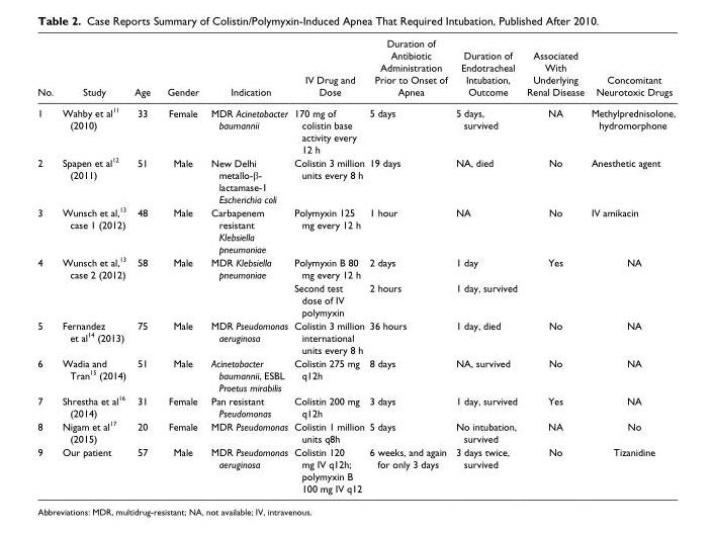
<table><thead><tr><td>No.</td><td>Study</td><td>Age</td><td>Gender</td><td>Indication</td><td>IV Drug and Dose</td><td>Duration of Antibiotic Administration Prior to Onset of Apnea</td><td>Duration of Endotracheal Intubation, Outcome</td><td>Associated With Underlying Renal Disease</td><td>Concomitant Neurotoxic Drugs</td></tr></thead><tbody><tr><td>1</td><td>Wahby et al<sup>11</sup> (2010)</td><td>33</td><td>Female</td><td>MDR Acinetobacter baumannii</td><td>170 mg of colistin base activity every 12 h</td><td>5 days</td><td>5 days, survived</td><td>NA</td><td>Methylprednisolone, hydromorphone</td></tr><tr><td>2</td><td>Spapen et al<sup>12</sup> (2011)</td><td>51</td><td>Male</td><td>New Delhi metallo-β- lactamase-1 Escherichia coli</td><td>Colistin 3 million units every 8 h</td><td>19 days</td><td>NA, died</td><td>No</td><td>Anesthetic agent</td></tr><tr><td>3</td><td>Wunsch et al,<sup>13</sup> case 1 (2012)</td><td>48</td><td>Male</td><td>Carbapenem resistant Klebsiella pneumoniae</td><td>Polymyxin 125 mg every 12 h</td><td>1 hour</td><td>NA</td><td>No</td><td>IV amikacin</td></tr><tr><td rowspan="2">4</td><td>Wunsch et al,<sup>13</sup> case 2 (2012)</td><td>58</td><td>Male</td><td>MDR Klebsiella pneumoniae</td><td>Polymyxin B 80 mg every 12 h</td><td>2 days</td><td>1 day</td><td>Yes</td><td>NA</td></tr><tr><td></td><td></td><td></td><td></td><td>Second test dose of IV polymyxin</td><td>2 hours</td><td>1 day, survived</td><td></td><td></td></tr><tr><td>5</td><td>Fernandez et al<sup>14</sup> (2013)</td><td>75</td><td>Male</td><td>MDR Pseudomonas aeruginosa</td><td>Colistin 3 million international units every 8 h</td><td>36 hours</td><td>1 day, died</td><td>No</td><td>NA</td></tr><tr><td>6</td><td>Wadia and Tran<sup>15</sup> (2014)</td><td>51</td><td>Male</td><td>Acinetobacter baumannii, ESBL Proetus mirabilis</td><td>Colistin 275 mg q12h</td><td>8 days</td><td>NA, survived</td><td>No</td><td>NA</td></tr><tr><td>7</td><td>Shrestha et al<sup>16</sup> (2014)</td><td>31</td><td>Female</td><td>Pan resistant Pseudomonas</td><td>Colistin 200 mg q12h</td><td>3 days</td><td>1 day, survived</td><td>Yes</td><td>NA</td></tr><tr><td>8</td><td>Nigam et al<sup>17</sup> (2015)</td><td>20</td><td>Female</td><td>MDR Pseudomonas</td><td>Colistin 1 million units q8h</td><td>5 days</td><td>No intubation, survived</td><td>NA</td><td>No</td></tr><tr><td>9</td><td>Our patient</td><td>57</td><td>Male</td><td>MDR Pseudomonas aeruginosa</td><td>Colistin 120 mg IV q12h; polymyxin B 100 mg IV q12</td><td>6 weeks, and again for only 3 days</td><td>3 days twice, survived</td><td>No</td><td>Tizanidine</td></tr></tbody></table>